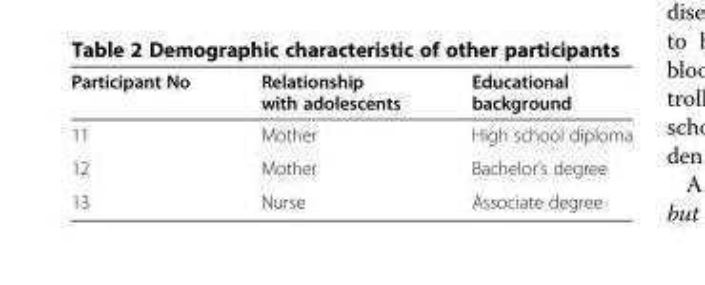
<table><thead><tr><td>Participant No</td><td>Relationship with adolescents</td><td>Educational background</td></tr></thead><tbody><tr><td>11</td><td>Mother</td><td>High school diploma</td></tr><tr><td>12</td><td>Mother</td><td>Bachelor’s degree</td></tr><tr><td>13</td><td>Nurse</td><td>Associate degree</td></tr></tbody></table>